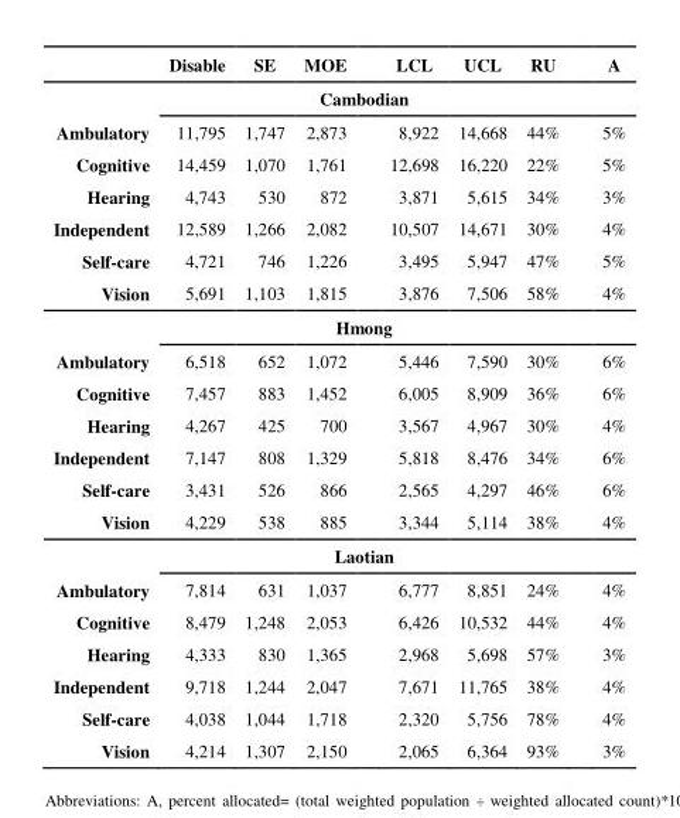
<table><thead><tr><td></td><td>Disable</td><td>SE</td><td>MOE</td><td>LCL</td><td>UCL</td><td>RU</td><td>A</td></tr></thead><tbody><tr><td></td><td colspan="7">Cambodian</td></tr><tr><td>Ambulatory</td><td>11,795</td><td>1,747</td><td>2,873</td><td>8,922</td><td>14,668</td><td>44%</td><td>5%</td></tr><tr><td>Cognitive</td><td>14,459</td><td>1,070</td><td>1,761</td><td>12,698</td><td>16,220</td><td>22%</td><td>5%</td></tr><tr><td>Hearing</td><td>4,743</td><td>530</td><td>872</td><td>3,871</td><td>5,615</td><td>34%</td><td>3%</td></tr><tr><td>Independent</td><td>12,589</td><td>1,266</td><td>2,082</td><td>10,507</td><td>14,671</td><td>30%</td><td>4%</td></tr><tr><td>Self-care</td><td>4,721</td><td>746</td><td>1,226</td><td>3,495</td><td>5,947</td><td>47%</td><td>5%</td></tr><tr><td rowspan="2">Vision</td><td>5,691</td><td>1,103</td><td>1,815</td><td>3,876</td><td>7,506</td><td>58%</td><td>4%</td></tr><tr><td colspan="7">Hmong</td></tr><tr><td>Ambulatory</td><td>6,518</td><td>652</td><td>1,072</td><td>5,446</td><td>7,590</td><td>30%</td><td>6%</td></tr><tr><td>Cognitive</td><td>7,457</td><td>883</td><td>1,452</td><td>6,005</td><td>8,909</td><td>36%</td><td>6%</td></tr><tr><td>Hearing</td><td>4,267</td><td>425</td><td>700</td><td>3,567</td><td>4,967</td><td>30%</td><td>4%</td></tr><tr><td>Independent</td><td>7,147</td><td>808</td><td>1,329</td><td>5,818</td><td>8,476</td><td>34%</td><td>6%</td></tr><tr><td>Self-care</td><td>3,431</td><td>526</td><td>866</td><td>2,565</td><td>4,297</td><td>46%</td><td>6%</td></tr><tr><td rowspan="2">Vision</td><td>4,229</td><td>538</td><td>885</td><td>3,344</td><td>5,114</td><td>38%</td><td>4%</td></tr><tr><td colspan="7">Laotian</td></tr><tr><td>Ambulatory</td><td>7,814</td><td>631</td><td>1,037</td><td>6,777</td><td>8,851</td><td>24%</td><td>4%</td></tr><tr><td>Cognitive</td><td>8,479</td><td>1,248</td><td>2,053</td><td>6,426</td><td>10,532</td><td>44%</td><td>4%</td></tr><tr><td>Hearing</td><td>4,333</td><td>830</td><td>1,365</td><td>2,968</td><td>5,698</td><td>57%</td><td>3%</td></tr><tr><td>Independent</td><td>9,718</td><td>1,244</td><td>2,047</td><td>7,671</td><td>11,765</td><td>38%</td><td>4%</td></tr><tr><td>Self-care</td><td>4,038</td><td>1,044</td><td>1,718</td><td>2,320</td><td>5,756</td><td>78%</td><td>4%</td></tr><tr><td>Vision</td><td>4,214</td><td>1,307</td><td>2,150</td><td>2,065</td><td>6,364</td><td>93%</td><td>3%</td></tr></tbody></table>